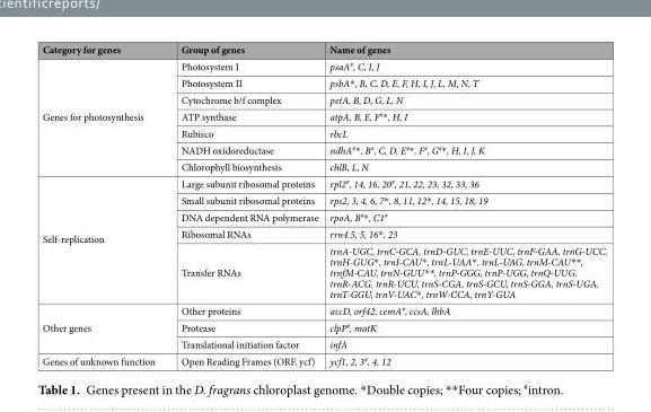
<table><thead><tr><td>Category for genes</td><td>Group of genes</td><td>Name of genes</td></tr></thead><tbody><tr><td rowspan="7">Genes for photosynthesis</td><td>Photosystem I</td><td>psaA<sup>#</sup>, C, I, J</td></tr><tr><td>Photosystem II</td><td>psbA*, B, C, D, E, F, H, I, J, L, M, N, T</td></tr><tr><td>Cytochrome b/f complex</td><td>petA, B, D, G, L, N</td></tr><tr><td>ATP synthase</td><td>atpA, B, E, F<sup>#</sup>*, H, I</td></tr><tr><td>Rubisco</td><td>rbcL</td></tr><tr><td>NADH oxidoreductase</td><td>ndhA<sup>#</sup>*, B<sup>#</sup>, C, D, E<sup>#</sup>*, F<sup>#</sup>, G<sup>#</sup>*, H, I, J, K</td></tr><tr><td>Chlorophyll biosynthesis</td><td>chlB, L, N</td></tr><tr><td rowspan="5">Self-replication</td><td>Large subunit ribosomal proteins</td><td>rpl2<sup>#</sup>, 14, 16, 20<sup>#</sup>, 21, 22, 23, 32, 33, 36</td></tr><tr><td>Small subunit ribosomal proteins</td><td>rps2, 3, 4, 6, 7*, 8, 11, 12*, 14, 15, 18, 19</td></tr><tr><td>DNA dependent RNA polymerase</td><td>rpoA, B<sup>#</sup>*, C1<sup>#</sup></td></tr><tr><td>Ribosomal RNAs</td><td>rrn4.5, 5, 16*, 23</td></tr><tr><td>Transfer RNAs</td><td>trnA-UGC, trnC-GCA, trnD-GUC, trnE-UUC, trnF-GAA, trnG-UCC, trnH-GUG*, trnI-CAU*, trnL-UAA*, trnL-UAG, trnM-CAU**, trnfM-CAU, trnN-GUU**, trnP-GGG, trnP-UGG, trnQ-UUG, trnR-ACG, trnR-UCU, trnS-CGA, trnS-GCU, trnS-GGA, trnS-UGA, trnT-GGU, trnV-UAC*, trnW-CCA, trnY-GUA</td></tr><tr><td rowspan="3">Other genes</td><td>Other proteins</td><td>accD, orf42, cemA<sup>#</sup>, ccsA, lhbA</td></tr><tr><td>Protease</td><td>clpP<sup>#</sup>, matK</td></tr><tr><td>Translational initiation factor</td><td>infA</td></tr><tr><td>Genes of unknown function</td><td>Open Reading Frames (ORF, ycf)</td><td>ycf1, 2, 3<sup>#</sup>, 4, 12</td></tr></tbody></table>